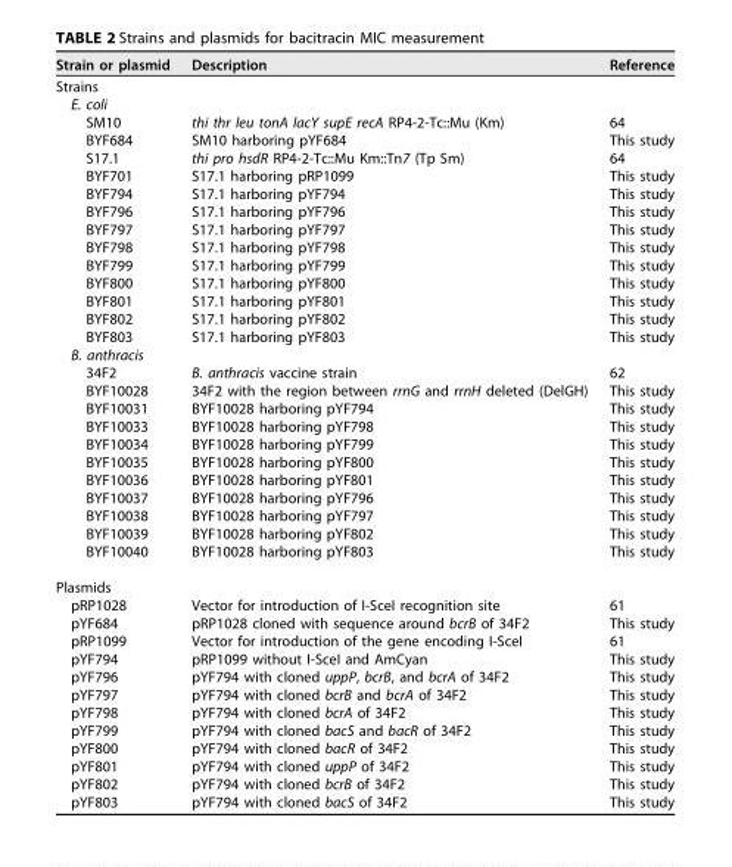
<table><thead><tr><td>Strain or plasmid</td><td>Description</td><td>Reference</td></tr></thead><tbody><tr><td colspan="3">Strains</td></tr><tr><td colspan="3">E. coli</td></tr><tr><td>SM10</td><td>thi thr leu tonA lacY supE recA RP4-2-Tc::Mu (Km)</td><td>64</td></tr><tr><td>BYF684</td><td>SM10 harboring pYF684</td><td>This study</td></tr><tr><td>S17.1</td><td>thi pro hsdR RP4-2-Tc::Mu Km::Tn7 (Tp Sm)</td><td>64</td></tr><tr><td>BYF701</td><td>S17.1 harboring pRP1099</td><td>This study</td></tr><tr><td>BYF794</td><td>S17.1 harboring pYF794</td><td>This study</td></tr><tr><td>BYF796</td><td>S17.1 harboring pYF796</td><td>This study</td></tr><tr><td>BYF797</td><td>S17.1 harboring pYF797</td><td>This study</td></tr><tr><td>BYF798</td><td>S17.1 harboring pYF798</td><td>This study</td></tr><tr><td>BYF799</td><td>S17.1 harboring pYF799</td><td>This study</td></tr><tr><td>BYF800</td><td>S17.1 harboring pYF800</td><td>This study</td></tr><tr><td>BYF801</td><td>S17.1 harboring pYF801</td><td>This study</td></tr><tr><td>BYF802</td><td>S17.1 harboring pYF802</td><td>This study</td></tr><tr><td>BYF803</td><td>S17.1 harboring pYF803</td><td>This study</td></tr><tr><td colspan="3">B. anthracis</td></tr><tr><td>34F2</td><td>B. anthracis vaccine strain</td><td>62</td></tr><tr><td>BYF10028</td><td>34F2 with the region between rrnG and rrnH deleted (DelGH)</td><td>This study</td></tr><tr><td>BYF10031</td><td>BYF10028 harboring pYF794</td><td>This study</td></tr><tr><td>BYF10033</td><td>BYF10028 harboring pYF798</td><td>This study</td></tr><tr><td>BYF10034</td><td>BYF10028 harboring pYF799</td><td>This study</td></tr><tr><td>BYF10035</td><td>BYF10028 harboring pYF800</td><td>This study</td></tr><tr><td>BYF10036</td><td>BYF10028 harboring pYF801</td><td>This study</td></tr><tr><td>BYF10037</td><td>BYF10028 harboring pYF796</td><td>This study</td></tr><tr><td>BYF10038</td><td>BYF10028 harboring pYF797</td><td>This study</td></tr><tr><td>BYF10039</td><td>BYF10028 harboring pYF802</td><td>This study</td></tr><tr><td>BYF10040</td><td>BYF10028 harboring pYF803</td><td>This study</td></tr><tr><td colspan="3">Plasmids</td></tr><tr><td>pRP1028</td><td>Vector for introduction of I-SceI recognition site</td><td>61</td></tr><tr><td>pYF684</td><td>pRP1028 cloned with sequence around bcrB of 34F2</td><td>This study</td></tr><tr><td>pRP1099</td><td>Vector for introduction of the gene encoding I-SceI</td><td>61</td></tr><tr><td>pYF794</td><td>pRP1099 without I-SceI and AmCyan</td><td>This study</td></tr><tr><td>pYF796</td><td>pYF794 with cloned uppP, bcrB, and bcrA of 34F2</td><td>This study</td></tr><tr><td>pYF797</td><td>pYF794 with cloned bcrB and bcrA of 34F2</td><td>This study</td></tr><tr><td>pYF798</td><td>pYF794 with cloned bcrA of 34F2</td><td>This study</td></tr><tr><td>pYF799</td><td>pYF794 with cloned bacS and bacR of 34F2</td><td>This study</td></tr><tr><td>pYF800</td><td>pYF794 with cloned bacR of 34F2</td><td>This study</td></tr><tr><td>pYF801</td><td>pYF794 with cloned uppP of 34F2</td><td>This study</td></tr><tr><td>pYF802</td><td>pYF794 with cloned bcrB of 34F2</td><td>This study</td></tr><tr><td>pYF803</td><td>pYF794 with cloned bacS of 34F2</td><td>This study</td></tr></tbody></table>